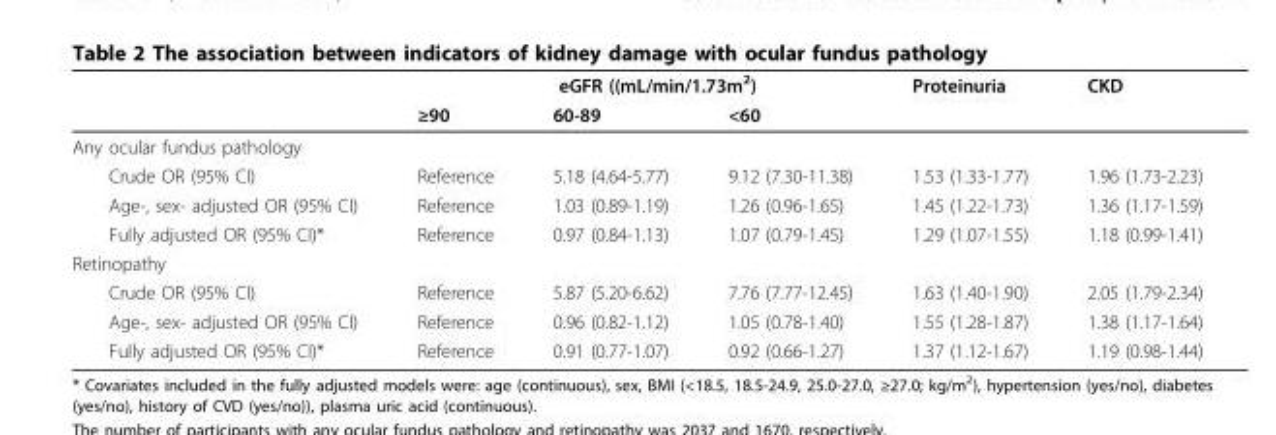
<table><thead><tr><td rowspan="2"></td><td colspan="3">eGFR ((mL/min/1.73m<sup>2</sup>)</td><td rowspan="2">Proteinuria</td><td rowspan="2">CKD</td></tr><tr><td>≥90</td><td>60-89</td><td>&lt;60</td></tr></thead><tbody><tr><td colspan="6">Any ocular fundus pathology</td></tr><tr><td>Crude OR (95% CI)</td><td>Reference</td><td>5.18 (4.64-5.77)</td><td>9.12 (7.30-11.38)</td><td>1.53 (1.33-1.77)</td><td>1.96 (1.73-2.23)</td></tr><tr><td>Age-, sex- adjusted OR (95% CI)</td><td>Reference</td><td>1.03 (0.89-1.19)</td><td>1.26 (0.96-1.65)</td><td>1.45 (1.22-1.73)</td><td>1.36 (1.17-1.59)</td></tr><tr><td>Fully adjusted OR (95% CI)*</td><td>Reference</td><td>0.97 (0.84-1.13)</td><td>1.07 (0.79-1.45)</td><td>1.29 (1.07-1.55)</td><td>1.18 (0.99-1.41)</td></tr><tr><td colspan="6">Retinopathy</td></tr><tr><td>Crude OR (95% CI)</td><td>Reference</td><td>5.87 (5.20-6.62)</td><td>7.76 (7.77-12.45)</td><td>1.63 (1.40-1.90)</td><td>2.05 (1.79-2.34)</td></tr><tr><td>Age-, sex- adjusted OR (95% CI)</td><td>Reference</td><td>0.96 (0.82-1.12)</td><td>1.05 (0.78-1.40)</td><td>1.55 (1.28-1.87)</td><td>1.38 (1.17-1.64)</td></tr><tr><td>Fully adjusted OR (95% CI)*</td><td>Reference</td><td>0.91 (0.77-1.07)</td><td>0.92 (0.66-1.27)</td><td>1.37 (1.12-1.67)</td><td>1.19 (0.98-1.44)</td></tr></tbody></table>